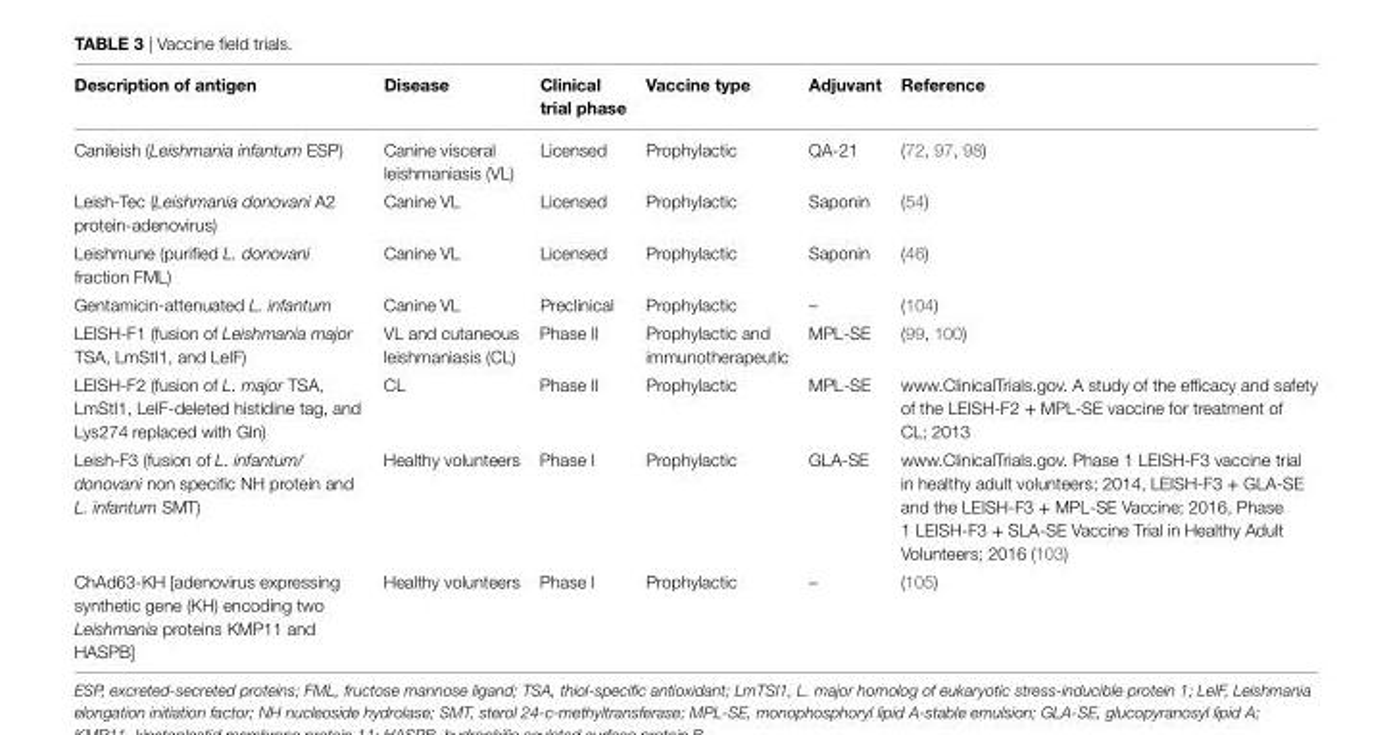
<table><thead><tr><td>Description of antigen</td><td>Disease</td><td>Clinical trial phase</td><td>vaccine type</td><td>Adjuvant</td><td>Reference</td></tr></thead><tbody><tr><td>Canileish (Leishmania infantum ESP)</td><td>Canine visceral leishmaniasis (VL)</td><td>Licensed</td><td>Prophylactic</td><td>QA-21</td><td>(72, 97, 98)</td></tr><tr><td>Leish-Tec (Leishmania donovani A2 protein-adenovirus)</td><td>Canine VL</td><td>Licensed</td><td>Prophylactic</td><td>Saponin</td><td>(54)</td></tr><tr><td>Leishmune (purified L. donovani fraction FML)</td><td>Canine VL</td><td>Licensed</td><td>Prophylactic</td><td>Saponin</td><td>(46)</td></tr><tr><td>Gentamicin-attenuated L. infantum</td><td>Canine VL</td><td>Preclinical</td><td>Prophylactic</td><td>–</td><td>(104)</td></tr><tr><td>LEISH-F1 (fusion of Leishmania major TSA, LmStI1, and LeIF)</td><td>VL and cutaneous leishmaniasis (CL)</td><td>Phase II</td><td>Prophylactic and immunotherapeutic</td><td>MPL-SE</td><td>(99, 100)</td></tr><tr><td>LEISH-F2 (fusion of L. major TSA, LmStI1, LeIF-deleted histidine tag, and Lys274 replaced with Gln)</td><td>CL</td><td>Phase II</td><td>Prophylactic</td><td>MPL-SE</td><td>www.ClinicalTrials.gov. A study of the efficacy and safety of the LEISH-F2 + MPL-SE vaccine for treatment of CL; 2013</td></tr><tr><td>Leish-F3 (fusion of L. infantum/ donovani non specific NH protein and L. infantum SMT)</td><td>Healthy volunteers</td><td>Phase I</td><td>Prophylactic</td><td>GLA-SE</td><td>www.ClinicalTrials.gov. Phase 1 LEISH-F3 vaccine trial in healthy adult volunteers; 2014, LEISH-F3 + GLA-SE and the LEISH-F3 + MPL-SE Vaccine; 2016, Phase 1 LEISH-F3 + SLA-SE Vaccine Trial in Healthy Adult Volunteers; 2016 (103)</td></tr><tr><td>ChAd63-KH [adenovirus expressing synthetic gene (KH) encoding two Leishmania proteins KMP11 and HASPB]</td><td>Healthy volunteers</td><td>Phase I</td><td>Prophylactic</td><td>–</td><td>(105)</td></tr></tbody></table>